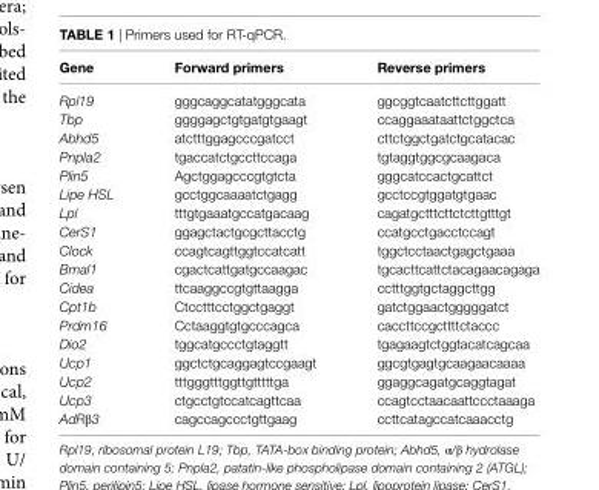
<table><thead><tr><td>gene</td><td>Forward primers</td><td>reverse primers</td></tr></thead><tbody><tr><td>Rpl19</td><td>gggcaggcatatgggcata</td><td>ggcggtcaatcttcttggatt</td></tr><tr><td>Tbp</td><td>ggggagctgtgatgtgaagt</td><td>ccaggaaataattctggctca</td></tr><tr><td>Abhd5</td><td>atctttggagcccgatcct</td><td>cttctggctgatctgcatacac</td></tr><tr><td>Pnpla2</td><td>tgaccatctgccttccaga</td><td>tgtaggtggcgcaagaca</td></tr><tr><td>Plin5</td><td>Agctggagcccgtgtcta</td><td>gggcatccactgcattct</td></tr><tr><td>Lipe HSL</td><td>gcctggcaaaatctgagg</td><td>gcctccgtggatgtgaac</td></tr><tr><td>Lpl</td><td>tttgtgaaatgccatgacaag</td><td>cagatgctttcttctcttgtttgt</td></tr><tr><td>CerS1</td><td>ggagctactgcgcttacctg</td><td>ccatgcctgacctccagt</td></tr><tr><td>Clock</td><td>ccagtcagttggtccatcatt</td><td>tggctcctaactgagctgaaa</td></tr><tr><td>Bmal1</td><td>cgactcattgatgccaagac</td><td>tgcacttcattctacagaacagaga</td></tr><tr><td>Cidea</td><td>ttcaaggccgtgttaagga</td><td>cctttggtgctaggcttgg</td></tr><tr><td>Cpt1b</td><td>Ctcctttcctggctgaggt</td><td>gatctggaactgggggatct</td></tr><tr><td>Prdm16</td><td>Cctaaggtgtgcccagca</td><td>caccttccgcttttctaccc</td></tr><tr><td>Dio2</td><td>tggcatgccctgtaggtt</td><td>tgagaagtctggtacatcagcaa</td></tr><tr><td>Ucp1</td><td>ggctctgcaggagtccgaagt</td><td>ggcgtgagtgcaagaacaaaa</td></tr><tr><td>Ucp2</td><td>tttgggtttggttgtttttga</td><td>ggaggcagatgcaggtagat</td></tr><tr><td>Ucp3</td><td>ctgcctgtccatcagttcaa</td><td>ccagtcctaacaattccctaaaga</td></tr><tr><td>AdRβ3</td><td>cagccagccctgttgaag</td><td>ccttcatagccatcaaacctg</td></tr></tbody></table>